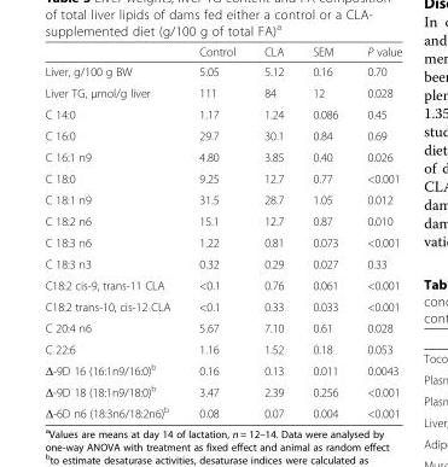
<table><thead><tr><td></td><td>Control</td><td>CLA</td><td>SEM</td><td>P value</td></tr></thead><tbody><tr><td>Liver, g/100 g BW</td><td>5.05</td><td>5.12</td><td>0.16</td><td>0.70</td></tr><tr><td>Liver TG, μmol/g liver</td><td>111</td><td>84</td><td>12</td><td>0.028</td></tr><tr><td>C 14:0</td><td>1.17</td><td>1.24</td><td>0.086</td><td>0.45</td></tr><tr><td>C 16:0</td><td>29.7</td><td>30.1</td><td>0.84</td><td>0.69</td></tr><tr><td>C 16:1 n9</td><td>4.80</td><td>3.85</td><td>0.40</td><td>0.026</td></tr><tr><td>C 18:0</td><td>9.25</td><td>12.7</td><td>0.77</td><td>&lt;0.001</td></tr><tr><td>C 18:1 n9</td><td>31.5</td><td>28.7</td><td>1.05</td><td>0.012</td></tr><tr><td>C 18:2 n6</td><td>15.1</td><td>12.7</td><td>0.87</td><td>0.010</td></tr><tr><td>C 18:3 n6</td><td>1.22</td><td>0.81</td><td>0.073</td><td>&lt;0.001</td></tr><tr><td>C 18:3 n3</td><td>0.32</td><td>0.29</td><td>0.027</td><td>0.33</td></tr><tr><td>C18:2 cis-9, trans-11 CLA</td><td>&lt;0.1</td><td>0.76</td><td>0.061</td><td>&lt;0.001</td></tr><tr><td>C18:2 trans-10, cis-12 CLA</td><td>&lt;0.1</td><td>0.33</td><td>0.033</td><td>&lt;0.001</td></tr><tr><td>C 20:4 n6</td><td>5.67</td><td>7.10</td><td>0.61</td><td>0.028</td></tr><tr><td>C 22:6</td><td>1.16</td><td>1.52</td><td>0.18</td><td>0.053</td></tr><tr><td>Δ-9D 16 (16:1n9/16:0)<sup>b</sup></td><td>0.16</td><td>0.13</td><td>0.011</td><td>0.0043</td></tr><tr><td>Δ-9D 18 (18:1n9/18:0)<sup>b</sup></td><td>3.47</td><td>2.39</td><td>0.256</td><td>&lt;0.001</td></tr><tr><td>Δ-6D n6 (18:3n6/18:2n6)<sup>b</sup></td><td>0.08</td><td>0.07</td><td>0.004</td><td>&lt;0.001</td></tr></tbody></table>